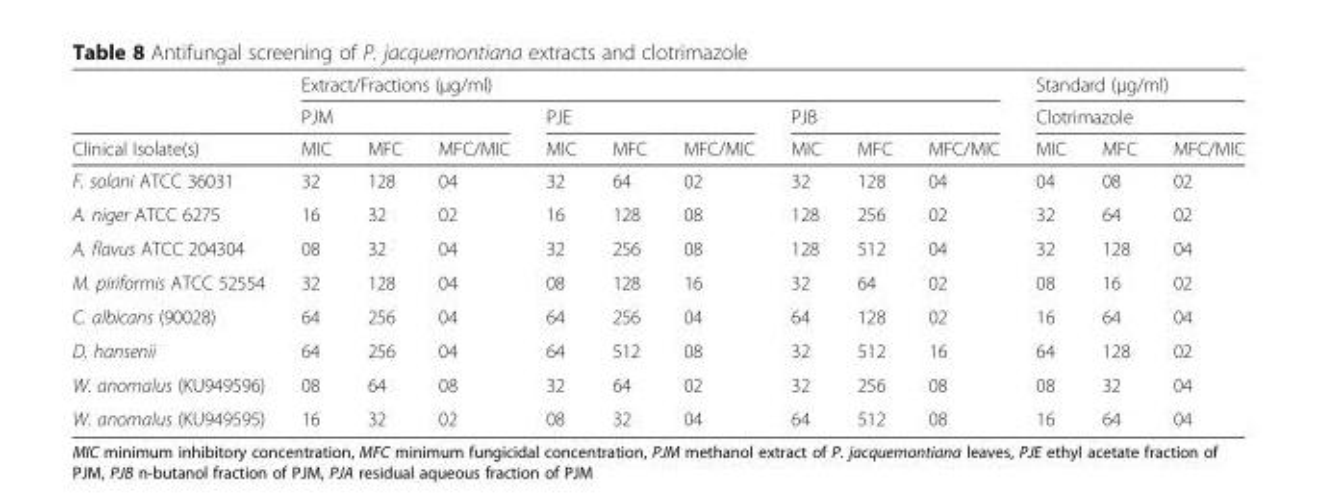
<table><thead><tr><td rowspan="3">Clinical Isolate(s)</td><td colspan="9">Extract/Fractions (μg/ml)</td><td rowspan="2" colspan="3">Standard (μg/ml) Clotrimazole</td></tr><tr><td colspan="3">PJM</td><td colspan="3">PJE</td><td colspan="3">PJB</td></tr><tr><td>MIC</td><td>MFC</td><td>MFC/MIC</td><td>MIC</td><td>MFC</td><td>MFC/MIC</td><td>MIC</td><td>MFC</td><td>MFC/MIC</td><td>MIC</td><td>MFC</td><td>MFC/MIC</td></tr></thead><tbody><tr><td>F. solani ATCC 36031</td><td>32</td><td>128</td><td>04</td><td>32</td><td>64</td><td>02</td><td>32</td><td>128</td><td>04</td><td>04</td><td>08</td><td>02</td></tr><tr><td>A. niger ATCC 6275</td><td>16</td><td>32</td><td>02</td><td>16</td><td>128</td><td>08</td><td>128</td><td>256</td><td>02</td><td>32</td><td>64</td><td>02</td></tr><tr><td>A. flavus ATCC 204304</td><td>08</td><td>32</td><td>04</td><td>32</td><td>256</td><td>08</td><td>128</td><td>512</td><td>04</td><td>32</td><td>128</td><td>04</td></tr><tr><td>M. piriformis ATCC 52554</td><td>32</td><td>128</td><td>04</td><td>08</td><td>128</td><td>16</td><td>32</td><td>64</td><td>02</td><td>08</td><td>16</td><td>02</td></tr><tr><td>C. albicans (90028)</td><td>64</td><td>256</td><td>04</td><td>64</td><td>256</td><td>04</td><td>64</td><td>128</td><td>02</td><td>16</td><td>64</td><td>04</td></tr><tr><td>D. hansenii</td><td>64</td><td>256</td><td>04</td><td>64</td><td>512</td><td>08</td><td>32</td><td>512</td><td>16</td><td>64</td><td>128</td><td>02</td></tr><tr><td>W. anomalus (KU949596)</td><td>08</td><td>64</td><td>08</td><td>32</td><td>64</td><td>02</td><td>32</td><td>256</td><td>08</td><td>08</td><td>32</td><td>04</td></tr><tr><td>W. anomalus (KU949595)</td><td>16</td><td>32</td><td>02</td><td>08</td><td>32</td><td>04</td><td>64</td><td>512</td><td>08</td><td>16</td><td>64</td><td>04</td></tr></tbody></table>